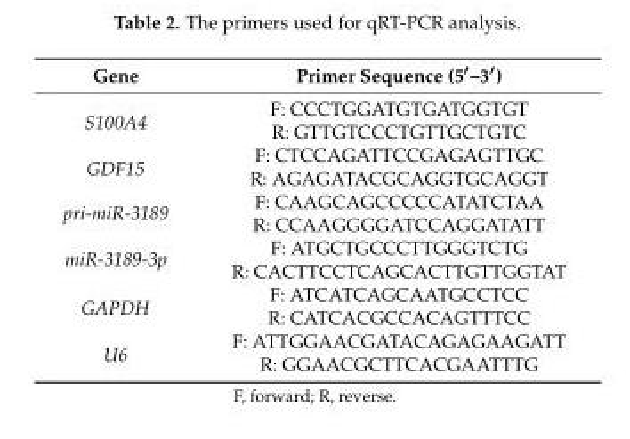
<table><thead><tr><td>Gene</td><td>Primer Sequence (5′–3′)</td></tr></thead><tbody><tr><td rowspan="2">S100A4</td><td>F: CCCTGGATGTGATGGTGT</td></tr><tr><td>R: GTTGTCCCTGTTGCTGTC</td></tr><tr><td rowspan="2">GDF15</td><td>F: CTCCAGATTCCGAGAGTTGC</td></tr><tr><td>R: AGAGATACGCAGGTGCAGGT</td></tr><tr><td rowspan="2">pri-miR-3189</td><td>F: CAAGCAGCCCCCATATCTAA</td></tr><tr><td>R: CCAAGGGGATCCAGGATATT</td></tr><tr><td rowspan="2">miR-3189-3p</td><td>F: ATGCTGCCCTTGGGTCTG</td></tr><tr><td>R: CACTTCCTCAGCACTTGTTGGTAT</td></tr><tr><td rowspan="2">GAPDH</td><td>F: ATCATCAGCAATGCCTCC</td></tr><tr><td>R: CATCACGCCACAGTTTCC</td></tr><tr><td rowspan="2">U6</td><td>F: ATTGGAACGATACAGAGAAGATT</td></tr><tr><td>R: GGAACGCTTCACGAATTTG</td></tr></tbody></table>